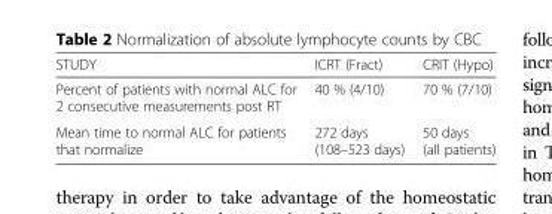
<table><thead><tr><td>STUDY</td><td>ICRT (Fract)</td><td>CRIT (Hypo)</td></tr></thead><tbody><tr><td>Percent of patients with normal ALC for 2 consecutive measurements post RT</td><td>40 % (4/10)</td><td>70 % (7/10)</td></tr><tr><td>Mean time to normal ALC for patients that normalize</td><td>272 days (108–523 days)</td><td>50 days (all patients)</td></tr></tbody></table>